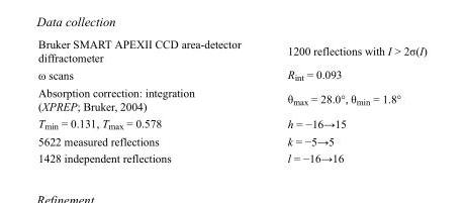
<table><tbody><tr><td>Bruker SMART APEXII CCD area-detector diffractometer</td><td>1200 reflections with I &gt; 2σ(I)</td></tr><tr><td>ω scans</td><td>R<sub>int</sub> = 0.093</td></tr><tr><td>Absorption correction: integration (XPREP; Bruker, 2004)</td><td>θ<sub>max</sub> = 28.0°, θ<sub>min</sub> = 1.8°</td></tr><tr><td>T<sub>min</sub> = 0.131, T<sub>max</sub> = 0.578</td><td>h = −16→15</td></tr><tr><td>5622 measured reflections</td><td>k = −5→5</td></tr><tr><td>1428 independent reflections</td><td>l = −16→16</td></tr></tbody></table>